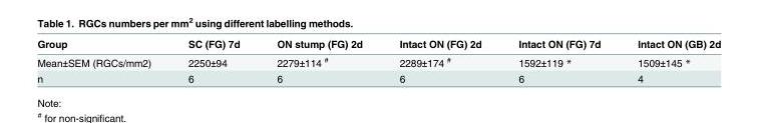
<table><thead><tr><td>Group</td><td>SC (FG) 7d</td><td>ON stump (FG) 2d</td><td>Intact ON (FG) 2d</td><td>Intact ON (FG) 7d</td><td>Intact ON (GB) 2d</td></tr></thead><tbody><tr><td>Mean±SEM (RGCs/mm2)</td><td>2250±94</td><td>2279±114 <sup>#</sup></td><td>2289±174 <sup>#</sup></td><td>1592±119 *</td><td>1509±145 *</td></tr><tr><td>n</td><td>6</td><td>6</td><td>6</td><td>6</td><td>4</td></tr></tbody></table>